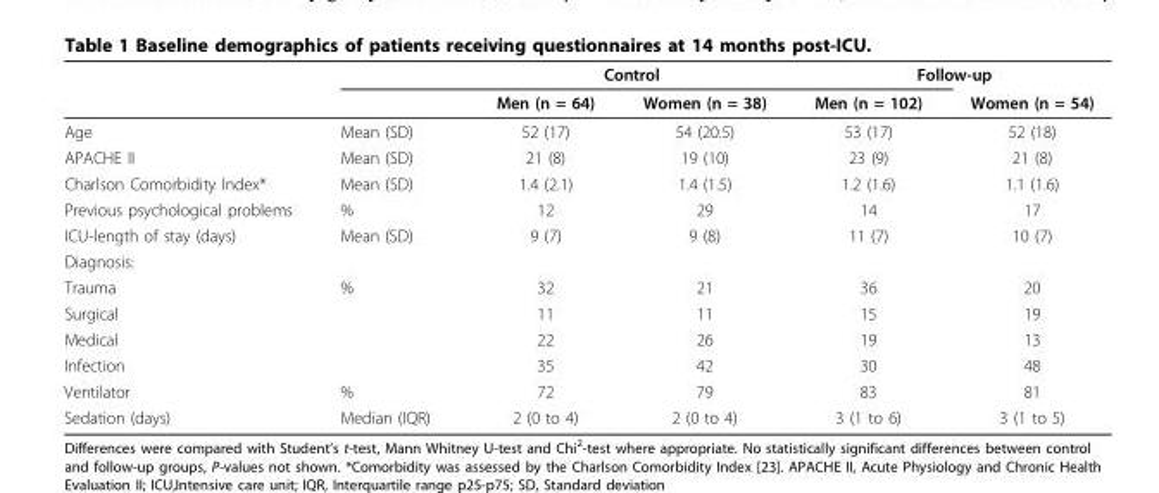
<table><thead><tr><td rowspan="2"></td><td rowspan="2"></td><td colspan="2">Control</td><td colspan="2">Follow-up</td></tr><tr><td>Men (n = 64)</td><td>Women (n = 38)</td><td>Men (n = 102)</td><td>Women (n = 54)</td></tr></thead><tbody><tr><td>Age</td><td>Mean (SD)</td><td>52 (17)</td><td>54 (20.5)</td><td>53 (17)</td><td>52 (18)</td></tr><tr><td>APACHE II</td><td>Mean (SD)</td><td>21 (8)</td><td>19 (10)</td><td>23 (9)</td><td>21 (8)</td></tr><tr><td>Charlson Comorbidity Index*</td><td>Mean (SD)</td><td>1.4 (2.1)</td><td>1.4 (1.5)</td><td>1.2 (1.6)</td><td>1.1 (1.6)</td></tr><tr><td>Previous psychological problems</td><td>%</td><td>12</td><td>29</td><td>14</td><td>17</td></tr><tr><td>ICU-length of stay (days)</td><td>Mean (SD)</td><td>9 (7)</td><td>9 (8)</td><td>11 (7)</td><td>10 (7)</td></tr><tr><td colspan="6">Diagnosis:</td></tr><tr><td>Trauma</td><td>%</td><td>32</td><td>21</td><td>36</td><td>20</td></tr><tr><td>Surgical</td><td></td><td>11</td><td>11</td><td>15</td><td>19</td></tr><tr><td>Medical</td><td></td><td>22</td><td>26</td><td>19</td><td>13</td></tr><tr><td>Infection</td><td></td><td>35</td><td>42</td><td>30</td><td>48</td></tr><tr><td>Ventilator</td><td>%</td><td>72</td><td>79</td><td>83</td><td>81</td></tr><tr><td>Sedation (days)</td><td>Median (IQR)</td><td>2 (0 to 4)</td><td>2 (0 to 4)</td><td>3 (1 to 6)</td><td>3 (1 to 5)</td></tr></tbody></table>